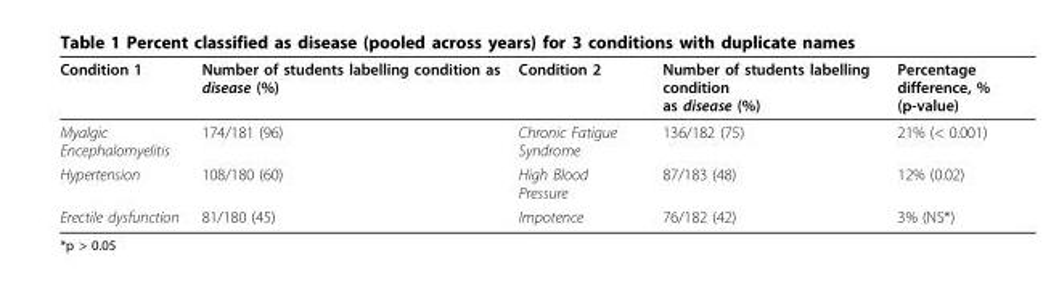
<table><thead><tr><td>Condition 1</td><td>Number of students labelling condition as disease (%)</td><td>Condition 2</td><td>Number of students labelling condition as disease (%)</td><td>Percentage difference, % (p-value)</td></tr></thead><tbody><tr><td>Myalgic Encephalomyelitis</td><td>174/181 (96)</td><td>Chronic Fatigue Syndrome</td><td>136/182 (75)</td><td>21% (&lt; 0.001)</td></tr><tr><td>Hypertension</td><td>108/180 (60)</td><td>High Blood Pressure</td><td>87/183 (48)</td><td>12% (0.02)</td></tr><tr><td>Erectile dysfunction</td><td>81/180 (45)</td><td>Impotence</td><td>76/182 (42)</td><td>3% (NS*)</td></tr></tbody></table>